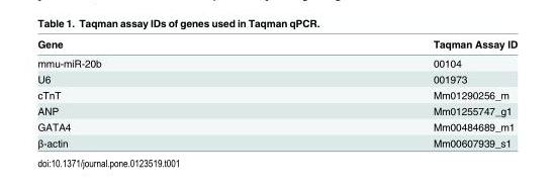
<table><thead><tr><td>Gene</td><td>Taqman Assay ID</td></tr></thead><tbody><tr><td>mmu-miR-20b</td><td>00104</td></tr><tr><td>U6</td><td>001973</td></tr><tr><td>cTnT</td><td>Mm01290256_m</td></tr><tr><td>ANP</td><td>Mm01255747_g1</td></tr><tr><td>GATA4</td><td>Mm00484689_m1</td></tr><tr><td>β-actin</td><td>Mm00607939_s1</td></tr></tbody></table>